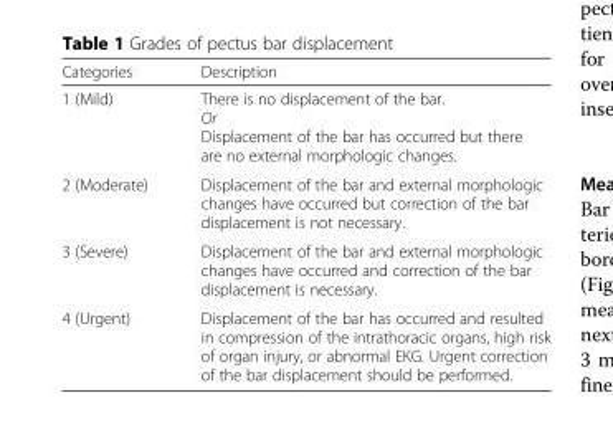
<table><thead><tr><td>Categories</td><td>Description</td></tr></thead><tbody><tr><td>1 (Mild)</td><td>There is no displacement of the bar. Or Displacement of the bar has occurred but there are no external morphologic changes.</td></tr><tr><td>2 (Moderate)</td><td>Displacement of the bar and external morphologic changes have occurred but correction of the bar displacement is not necessary.</td></tr><tr><td>3 (Severe)</td><td>Displacement of the bar and external morphologic changes have occurred and correction of the bar displacement is necessary.</td></tr><tr><td>4 (Urgent)</td><td>Displacement of the bar has occurred and resulted in compression of the intrathoracic organs, high risk of organ injury, or abnormal EKG. Urgent correction of the bar displacement should be performed.</td></tr></tbody></table>